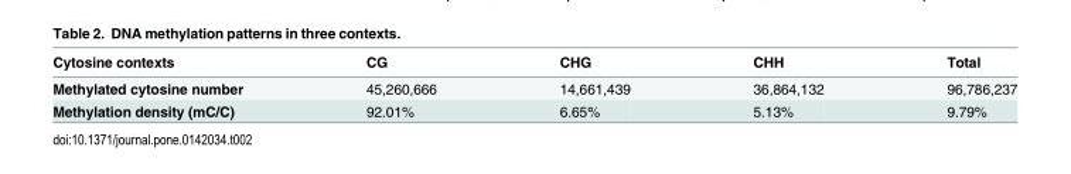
<table><thead><tr><td>Cytosine contexts</td><td>CG</td><td>CHG</td><td>CHH</td><td>Total</td></tr></thead><tbody><tr><td>Methylated cytosine number</td><td>45,260,666</td><td>14,661,439</td><td>36,864,132</td><td>96,786,237</td></tr><tr><td>Methylation density (mC/C)</td><td>92.01%</td><td>6.65%</td><td>5.13%</td><td>9.79%</td></tr></tbody></table>